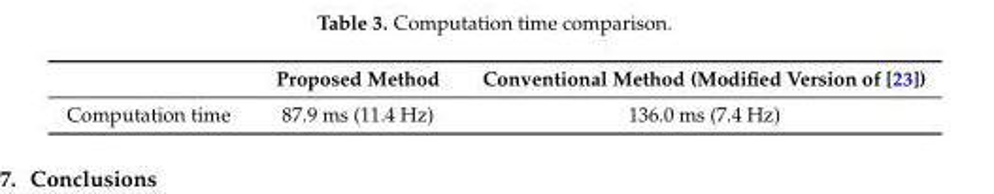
<table><thead><tr><td></td><td>Proposed Method</td><td>Conventional Method (Modified Version of [23])</td></tr></thead><tbody><tr><td>Computation time</td><td>87.9 ms (11.4 Hz)</td><td>136.0 ms (7.4 Hz)</td></tr></tbody></table>